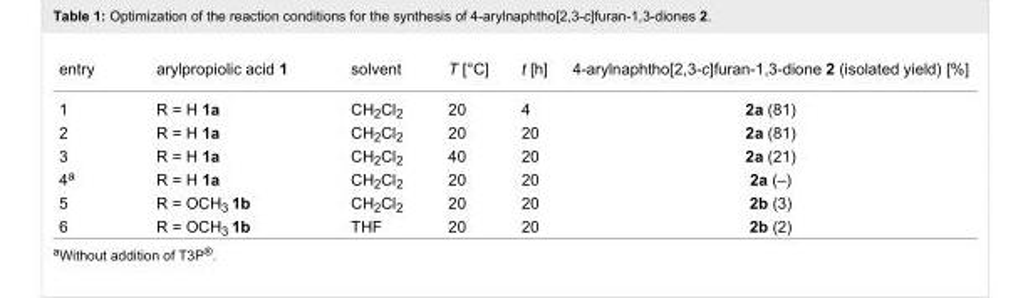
<table><tbody><tr><td>entry</td><td>arylpropiolic acid 1</td><td>solvent</td><td>T [°C]</td><td>t [h]</td><td>4-arylnaphtho[2,3-c]furan-1,3-dione 2 (isolated yield) [%]</td></tr><tr><td>1</td><td>R = H 1a</td><td>CH<sub>2</sub>Cl<sub>2</sub></td><td>20</td><td>4</td><td>2a (81)</td></tr><tr><td>2</td><td>R = H 1a</td><td>CH<sub>2</sub>Cl<sub>2</sub></td><td>20</td><td>20</td><td>2a (81)</td></tr><tr><td>3</td><td>R = H 1a</td><td>CH<sub>2</sub>Cl<sub>2</sub></td><td>40</td><td>20</td><td>2a (21)</td></tr><tr><td>4<sup>a</sup></td><td>R = H 1a</td><td>CH<sub>2</sub>Cl<sub>2</sub></td><td>20</td><td>20</td><td>2a (–)</td></tr><tr><td>5</td><td>R = OCH<sub>3</sub> 1b</td><td>CH<sub>2</sub>Cl<sub>2</sub></td><td>20</td><td>20</td><td>2b (3)</td></tr><tr><td>6</td><td>R = OCH<sub>3</sub> 1b</td><td>THF</td><td>20</td><td>20</td><td>2b (2)</td></tr></tbody></table>